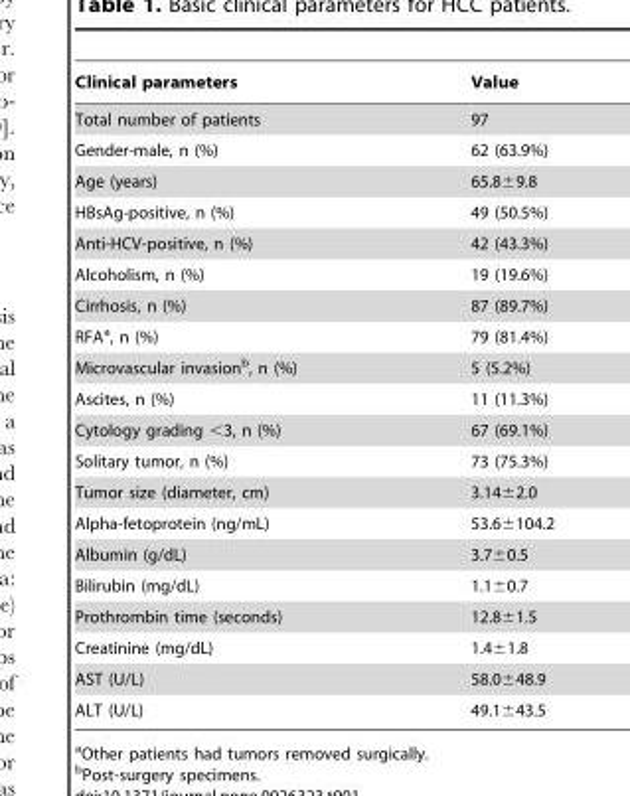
<table><thead><tr><td>Clinical parameters</td><td>Value</td></tr></thead><tbody><tr><td>Total number of patients</td><td>97</td></tr><tr><td>Gender-male, n (%)</td><td>62 (63.9%)</td></tr><tr><td>Age (years)</td><td>65.8±9.8</td></tr><tr><td>HBsAg-positive, n (%)</td><td>49 (50.5%)</td></tr><tr><td>Anti-HCV-positive, n (%)</td><td>42 (43.3%)</td></tr><tr><td>Alcoholism, n (%)</td><td>19 (19.6%)</td></tr><tr><td>Cirrhosis, n (%)</td><td>87 (89.7%)</td></tr><tr><td>RFA<sup>a</sup>, n (%)</td><td>79 (81.4%)</td></tr><tr><td>Microvascular invasion<sup>b</sup>, n (%)</td><td>5 (5.2%)</td></tr><tr><td>Ascites, n (%)</td><td>11 (11.3%)</td></tr><tr><td>Cytology grading &lt;3, n (%)</td><td>67 (69.1%)</td></tr><tr><td>Solitary tumor, n (%)</td><td>73 (75.3%)</td></tr><tr><td>Tumor size (diameter, cm)</td><td>3.14±2.0</td></tr><tr><td>Alpha-fetoprotein (ng/mL)</td><td>53.6±104.2</td></tr><tr><td>Albumin (g/dL)</td><td>3.7±0.5</td></tr><tr><td>Bilirubin (mg/dL)</td><td>1.1±0.7</td></tr><tr><td>Prothrombin time (seconds)</td><td>12.8±1.5</td></tr><tr><td>Creatinine (mg/dL)</td><td>1.4±1.8</td></tr><tr><td>AST (U/L)</td><td>58.0±48.9</td></tr><tr><td>ALT (U/L)</td><td>49.1±43.5</td></tr></tbody></table>